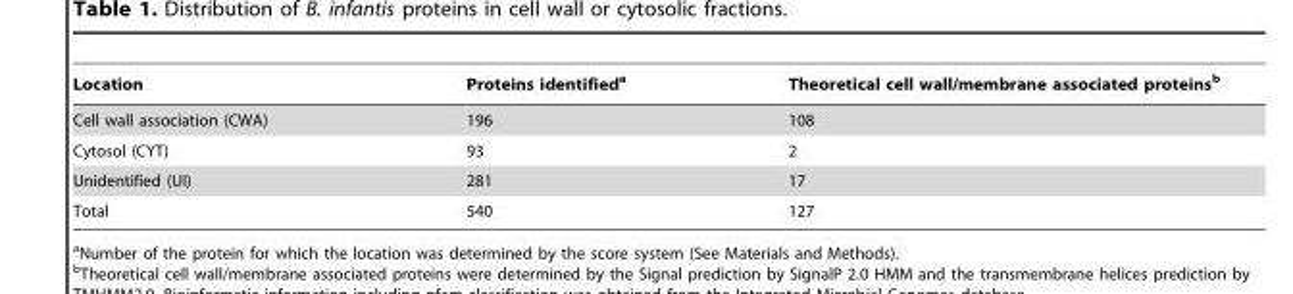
<table><thead><tr><td>Location</td><td>Proteins identified<sup>a</sup></td><td>Theoretical cell wall/membrane associated proteins<sup>b</sup></td></tr></thead><tbody><tr><td>Cell wall association (CWA)</td><td>196</td><td>108</td></tr><tr><td>Cytosol (CYT)</td><td>93</td><td>2</td></tr><tr><td>Unidentified (UI)</td><td>281</td><td>17</td></tr><tr><td>Total</td><td>540</td><td>127</td></tr></tbody></table>